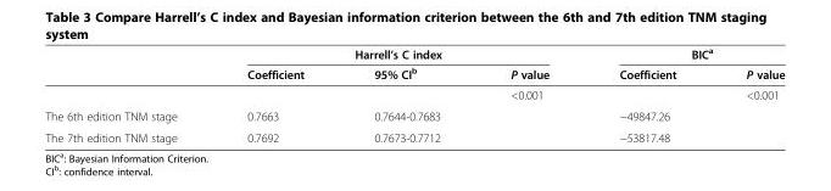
<table><thead><tr><td rowspan="2"></td><td colspan="3">Harrell’s C index</td><td colspan="2">BIC<sup>a</sup></td></tr><tr><td>Coefficient</td><td>95% CI<sup>b</sup></td><td>P value</td><td>Coefficient</td><td>P value</td></tr></thead><tbody><tr><td></td><td></td><td></td><td>&lt;0.001</td><td></td><td>&lt;0.001</td></tr><tr><td>The 6th edition TNM stage</td><td>0.7663</td><td>0.7644-0.7683</td><td></td><td>−49847.26</td><td></td></tr><tr><td>The 7th edition TNM stage</td><td>0.7692</td><td>0.7673-0.7712</td><td></td><td>−53817.48</td><td></td></tr></tbody></table>